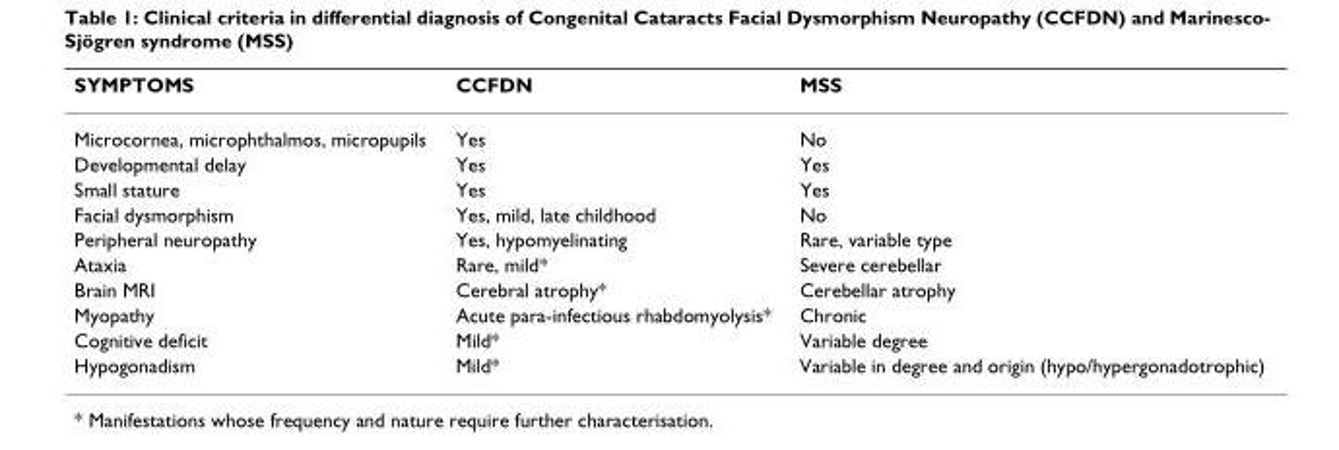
<table><thead><tr><td>SYMPTOMS</td><td>CCFDN</td><td>MSS</td></tr></thead><tbody><tr><td>Microcornea, microphthalmos, micropupils</td><td>Yes</td><td>No</td></tr><tr><td>Developmental delay</td><td>Yes</td><td>Yes</td></tr><tr><td>Small stature</td><td>Yes</td><td>Yes</td></tr><tr><td>Facial dysmorphism</td><td>Yes, mild, late childhood</td><td>No</td></tr><tr><td>Peripheral neuropathy</td><td>Yes, hypomyelinating</td><td>Rare, variable type</td></tr><tr><td>Ataxia</td><td>Rare, mild*</td><td>Severe cerebellar</td></tr><tr><td>Brain MRI</td><td>Cerebral atrophy*</td><td>Cerebellar atrophy</td></tr><tr><td>Myopathy</td><td>Acute para-infectious rhabdomyolysis*</td><td>Chronic</td></tr><tr><td>Cognitive deficit</td><td>Mild*</td><td>Variable degree</td></tr><tr><td>Hypogonadism</td><td>Mild*</td><td>Variable in degree and origin (hypo/hypergonadotrophic)</td></tr></tbody></table>